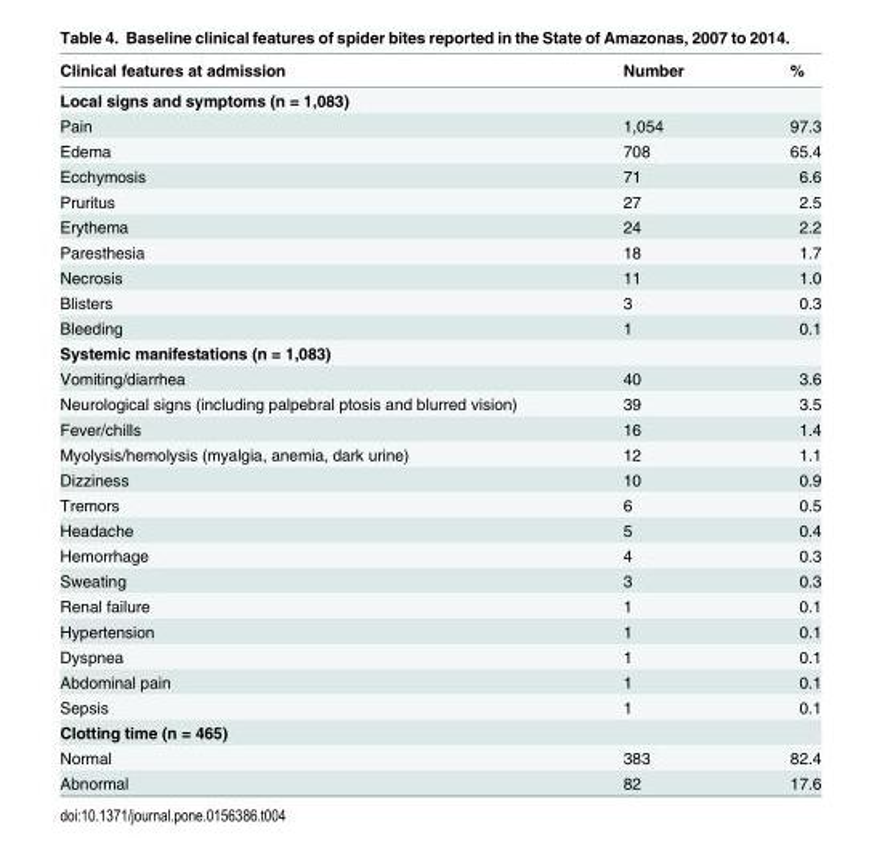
<table><thead><tr><td>Clinical features at admission</td><td>Number</td><td>%</td></tr></thead><tbody><tr><td colspan="3">Local signs and symptoms (n = 1,083)</td></tr><tr><td>Pain</td><td>1,054</td><td>97.3</td></tr><tr><td>Edema</td><td>708</td><td>65.4</td></tr><tr><td>Ecchymosis</td><td>71</td><td>6.6</td></tr><tr><td>Pruritus</td><td>27</td><td>2.5</td></tr><tr><td>Erythema</td><td>24</td><td>2.2</td></tr><tr><td>Paresthesia</td><td>18</td><td>1.7</td></tr><tr><td>Necrosis</td><td>11</td><td>1.0</td></tr><tr><td>Blisters</td><td>3</td><td>0.3</td></tr><tr><td>Bleeding</td><td>1</td><td>0.1</td></tr><tr><td colspan="3">Systemic manifestations (n = 1,083)</td></tr><tr><td>Vomiting/diarrhea</td><td>40</td><td>3.6</td></tr><tr><td>Neurological signs (including palpebral ptosis and blurred vision)</td><td>39</td><td>3.5</td></tr><tr><td>Fever/chills</td><td>16</td><td>1.4</td></tr><tr><td>Myolysis/hemolysis (myalgia, anemia, dark urine)</td><td>12</td><td>1.1</td></tr><tr><td>Dizziness</td><td>10</td><td>0.9</td></tr><tr><td>Tremors</td><td>6</td><td>0.5</td></tr><tr><td>Headache</td><td>5</td><td>0.4</td></tr><tr><td>Hemorrhage</td><td>4</td><td>0.3</td></tr><tr><td>Sweating</td><td>3</td><td>0.3</td></tr><tr><td>Renal failure</td><td>1</td><td>0.1</td></tr><tr><td>Hypertension</td><td>1</td><td>0.1</td></tr><tr><td>Dyspnea</td><td>1</td><td>0.1</td></tr><tr><td>Abdominal pain</td><td>1</td><td>0.1</td></tr><tr><td>Sepsis</td><td>1</td><td>0.1</td></tr><tr><td colspan="3">Clotting time (n = 465)</td></tr><tr><td>Normal</td><td>383</td><td>82.4</td></tr><tr><td>Abnormal</td><td>82</td><td>17.6</td></tr></tbody></table>